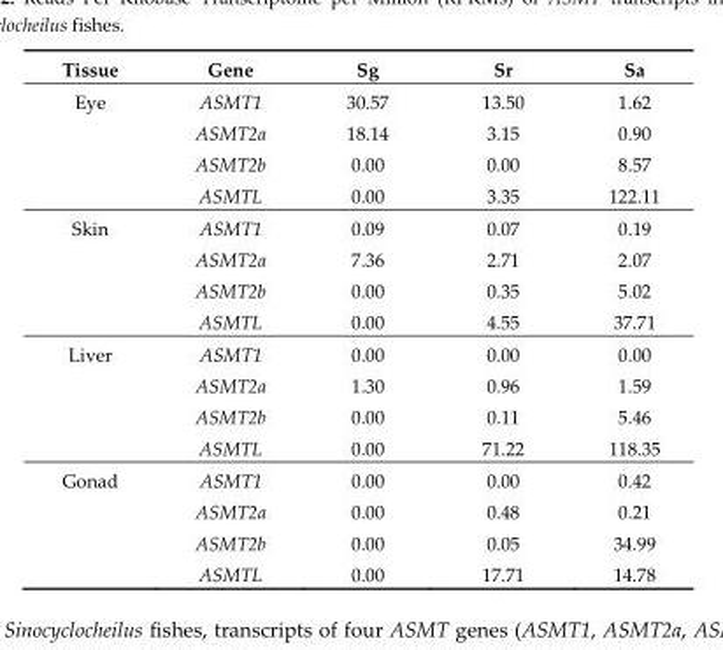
<table><thead><tr><td>Tissue</td><td>Gene</td><td>Sg</td><td>Sr</td><td>Sa</td></tr></thead><tbody><tr><td rowspan="4">Eye</td><td>ASMT1</td><td>30.57</td><td>13.50</td><td>1.62</td></tr><tr><td>ASMT2a</td><td>18.14</td><td>3.15</td><td>0.90</td></tr><tr><td>ASMT2b</td><td>0.00</td><td>0.00</td><td>8.57</td></tr><tr><td>ASMTL</td><td>0.00</td><td>3.35</td><td>122.11</td></tr><tr><td rowspan="4">Skin</td><td>ASMT1</td><td>0.09</td><td>0.07</td><td>0.19</td></tr><tr><td>ASMT2a</td><td>7.36</td><td>2.71</td><td>2.07</td></tr><tr><td>ASMT2b</td><td>0.00</td><td>0.35</td><td>5.02</td></tr><tr><td>ASMTL</td><td>0.00</td><td>4.55</td><td>37.71</td></tr><tr><td rowspan="4">Liver</td><td>ASMT1</td><td>0.00</td><td>0.00</td><td>0.00</td></tr><tr><td>ASMT2a</td><td>1.30</td><td>0.96</td><td>1.59</td></tr><tr><td>ASMT2b</td><td>0.00</td><td>0.11</td><td>5.46</td></tr><tr><td>ASMTL</td><td>0.00</td><td>71.22</td><td>118.35</td></tr><tr><td rowspan="4">Gonad</td><td>ASMT1</td><td>0.00</td><td>0.00</td><td>0.42</td></tr><tr><td>ASMT2a</td><td>0.00</td><td>0.48</td><td>0.21</td></tr><tr><td>ASMT2b</td><td>0.00</td><td>0.05</td><td>34.99</td></tr><tr><td>ASMTL</td><td>0.00</td><td>17.71</td><td>14.78</td></tr></tbody></table>